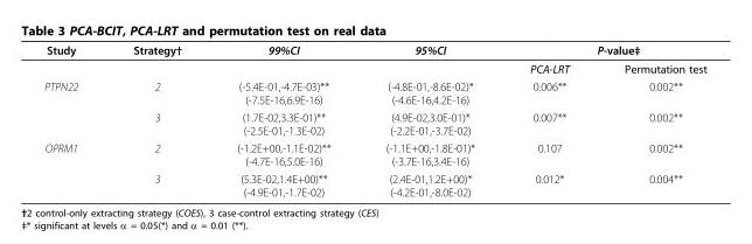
<table><thead><tr><td rowspan="2">Study</td><td rowspan="2">Strategy†</td><td rowspan="2">99%CI</td><td rowspan="2">95%CI</td><td colspan="2">P-value‡</td></tr><tr><td>PCA-LRT</td><td>Permutation test</td></tr></thead><tbody><tr><td rowspan="2">PTPN22</td><td>2</td><td>(-5.4E-01,-4.7E-03)** (-7.5E-16,6.9E-16)</td><td>(-4.8E-01,-8.6E-02)* (-4.6E-16,4.2E-16)</td><td>0.006**</td><td>0.002**</td></tr><tr><td>3</td><td>(1.7E-02,3.3E-01)** (-2.5E-01,-1.3E-02)</td><td>(4.9E-02,3.0E-01)* (-2.2E-01,-3.7E-02)</td><td>0.007**</td><td>0.002**</td></tr><tr><td rowspan="2">OPRM1</td><td>2</td><td>(-1.2E+00,-1.1E-02)** (-4.7E-16,5.0E-16)</td><td>(-1.1E+00,-1.8E-01)* (-3.7E-16,3.4E-16)</td><td>0.107</td><td>0.002**</td></tr><tr><td>3</td><td>(5.3E-02,1.4E+00)** (-4.9E-01,-1.7E-02)</td><td>(2.4E-01,1.2E+00)* (-4.2E-01,-8.0E-02)</td><td>0.012*</td><td>0.004**</td></tr></tbody></table>